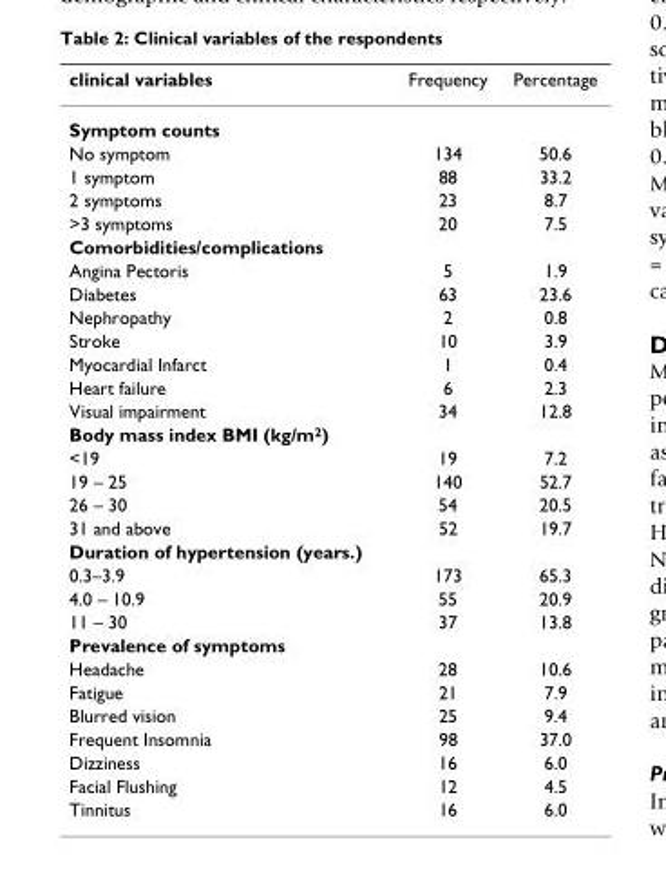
<table><thead><tr><td>clinical variables</td><td>Frequency</td><td>Percentage</td></tr></thead><tbody><tr><td colspan="3">Symptom counts</td></tr><tr><td>No symptom</td><td>134</td><td>50.6</td></tr><tr><td>1 symptom</td><td>88</td><td>33.2</td></tr><tr><td>2 symptoms</td><td>23</td><td>8.7</td></tr><tr><td>&gt;3 symptoms</td><td>20</td><td>7.5</td></tr><tr><td colspan="3">Comorbidities/complications</td></tr><tr><td>Angina Pectoris</td><td>5</td><td>1.9</td></tr><tr><td>Diabetes</td><td>63</td><td>23.6</td></tr><tr><td>Nephropathy</td><td>2</td><td>0.8</td></tr><tr><td>Stroke</td><td>10</td><td>3.9</td></tr><tr><td>Myocardial Infarct</td><td>1</td><td>0.4</td></tr><tr><td>Heart failure</td><td>6</td><td>2.3</td></tr><tr><td>Visual impairment</td><td>34</td><td>12.8</td></tr><tr><td colspan="3">Body mass index BMI (kg/m<sup>2</sup>)</td></tr><tr><td>&lt;19</td><td>19</td><td>7.2</td></tr><tr><td>19 – 25</td><td>140</td><td>52.7</td></tr><tr><td>26 – 30</td><td>54</td><td>20.5</td></tr><tr><td>31 and above</td><td>52</td><td>19.7</td></tr><tr><td colspan="3">Duration of hypertension (years.)</td></tr><tr><td>0.3–3.9</td><td>173</td><td>65.3</td></tr><tr><td>4.0 – 10.9</td><td>55</td><td>20.9</td></tr><tr><td>11 – 30</td><td>37</td><td>13.8</td></tr><tr><td colspan="3">Prevalence of symptoms</td></tr><tr><td>Headache</td><td>28</td><td>10.6</td></tr><tr><td>Fatigue</td><td>21</td><td>7.9</td></tr><tr><td>Blurred vision</td><td>25</td><td>9.4</td></tr><tr><td>Frequent Insomnia</td><td>98</td><td>37.0</td></tr><tr><td>Dizziness</td><td>16</td><td>6.0</td></tr><tr><td>Facial Flushing</td><td>12</td><td>4.5</td></tr><tr><td>Tinnitus</td><td>16</td><td>6.0</td></tr></tbody></table>